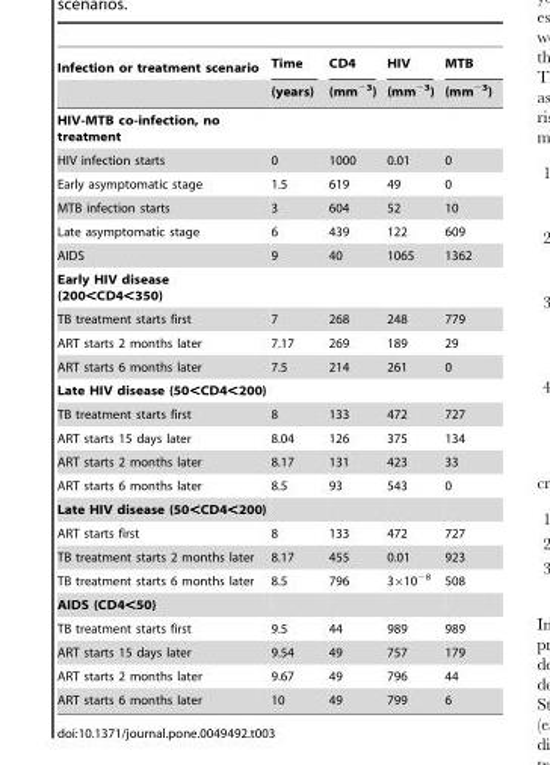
<table><thead><tr><td rowspan="2">Infection or treatment scenario</td><td rowspan="2">Time (years)</td><td rowspan="2">CD4 (mm<sup>−3</sup>)</td><td rowspan="2">HIV (mm<sup>−3</sup>)</td><td rowspan="2">MTB (mm<sup>−3</sup>)</td></tr><tr></tr></thead><tbody><tr><td colspan="5">HIV-MTB co-infection, no treatment</td></tr><tr><td>HIV infection starts</td><td>0</td><td>1000</td><td>0.01</td><td>0</td></tr><tr><td>Early asymptomatic stage</td><td>1.5</td><td>619</td><td>49</td><td>0</td></tr><tr><td>MTB infection starts</td><td>3</td><td>604</td><td>52</td><td>10</td></tr><tr><td>Late asymptomatic stage</td><td>6</td><td>439</td><td>122</td><td>609</td></tr><tr><td>AIDS</td><td>9</td><td>40</td><td>1065</td><td>1362</td></tr><tr><td colspan="5">Early HIV disease (200&lt;CD4&lt;350)</td></tr><tr><td>TB treatment starts first</td><td>7</td><td>268</td><td>248</td><td>779</td></tr><tr><td>ART starts 2 months later</td><td>7.17</td><td>269</td><td>189</td><td>29</td></tr><tr><td>ART starts 6 months later</td><td>7.5</td><td>214</td><td>261</td><td>0</td></tr><tr><td colspan="5">Late HIV disease (50&lt;CD4&lt;200)</td></tr><tr><td>TB treatment starts first</td><td>8</td><td>133</td><td>472</td><td>727</td></tr><tr><td>ART starts 15 days later</td><td>8.04</td><td>126</td><td>375</td><td>134</td></tr><tr><td>ART starts 2 months later</td><td>8.17</td><td>131</td><td>423</td><td>33</td></tr><tr><td>ART starts 6 months later</td><td>8.5</td><td>93</td><td>543</td><td>0</td></tr><tr><td colspan="5">Late HIV disease (50&lt;CD4&lt;200)</td></tr><tr><td>ART starts first</td><td>8</td><td>133</td><td>472</td><td>727</td></tr><tr><td>TB treatment starts 2 months later</td><td>8.17</td><td>455</td><td>0.01</td><td>923</td></tr><tr><td>TB treatment starts 6 months later</td><td>8.5</td><td>796</td><td>3×10<sup>−8</sup></td><td>508</td></tr><tr><td colspan="5">AIDS (CD4&lt;50)</td></tr><tr><td>TB treatment starts first</td><td>9.5</td><td>44</td><td>989</td><td>989</td></tr><tr><td>ART starts 15 days later</td><td>9.54</td><td>49</td><td>757</td><td>179</td></tr><tr><td>ART starts 2 months later</td><td>9.67</td><td>49</td><td>796</td><td>44</td></tr><tr><td>ART starts 6 months later</td><td>10</td><td>49</td><td>799</td><td>6</td></tr></tbody></table>